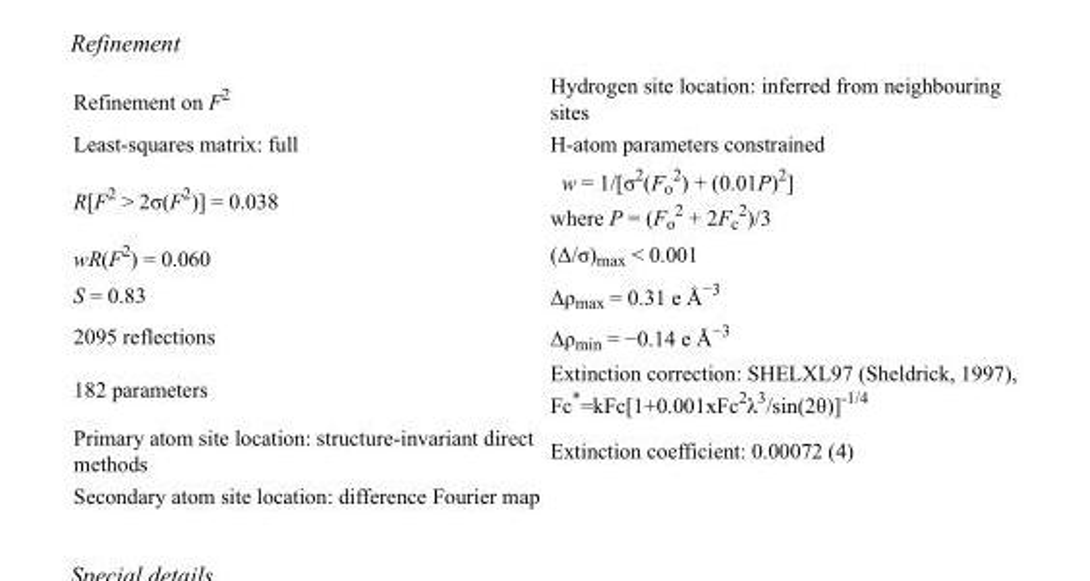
<table><tbody><tr><td>Refinement on F<sup>2</sup></td><td>Hydrogen site location: inferred from neighbouring sites</td></tr><tr><td>Least-squares matrix: full</td><td>H-atom parameters constrained</td></tr><tr><td>R[F<sup>2</sup> &gt; 2σ(F<sup>2</sup>)] = 0.038</td><td>w = 1/[σ<sup>2</sup>(F<sub>o</sub> <sup>2</sup>) + (0.01P)<sup>2</sup>] where P = (F<sub>o</sub> <sup>2</sup> + 2F<sub>c</sub> <sup>2</sup>)/3</td></tr><tr><td>wR(F<sup>2</sup>) = 0.060</td><td>(Δ/σ)<sub>max</sub> &lt; 0.001</td></tr><tr><td>S = 0.83</td><td>Δρ<sub>max</sub> = 0.31 e Å<sup>−3</sup></td></tr><tr><td>2095 reflections</td><td>Δρ<sub>min</sub> = −0.14 e Å<sup>−3</sup></td></tr><tr><td>182 parameters</td><td>Extinction correction: SHELXL97 (Sheldrick, 1997), Fc*=kFc[1+0.001xFc<sup>2</sup>λ<sup>3</sup>/sin(2θ)]<sup>-1/4</sup></td></tr><tr><td>Primary atom site location: structure-invariant direct methods</td><td>Extinction coefficient: 0.00072 (4)</td></tr><tr><td>Secondary atom site location: difference Fourier map</td><td></td></tr></tbody></table>